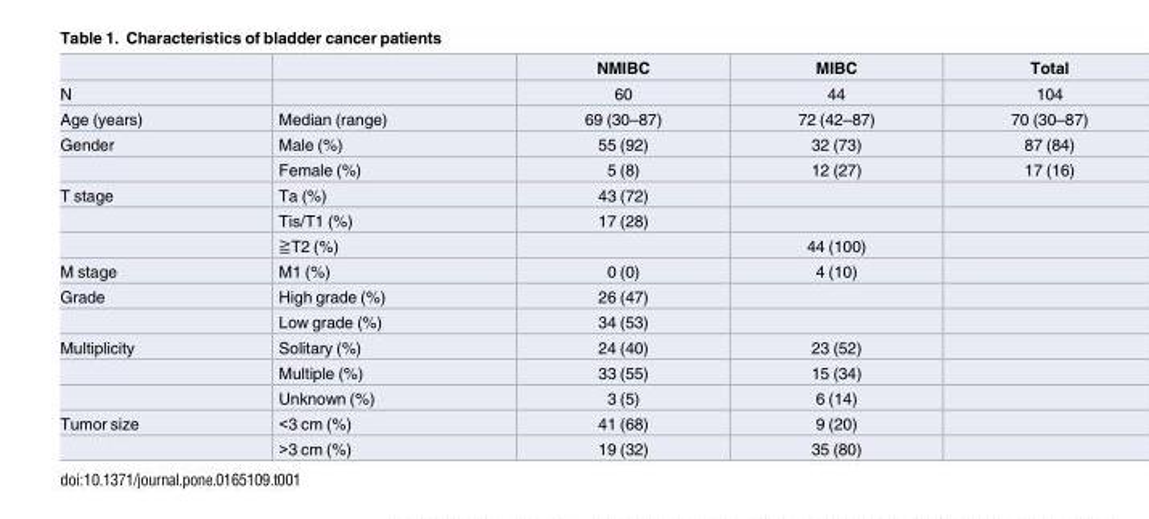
<table><thead><tr><td></td><td></td><td>NMIBC</td><td>MIBC</td><td>Total</td></tr></thead><tbody><tr><td>N</td><td></td><td>60</td><td>44</td><td>104</td></tr><tr><td>Age (years)</td><td>Median (range)</td><td>69 (30–87)</td><td>72 (42–87)</td><td>70 (30–87)</td></tr><tr><td rowspan="2">Gender</td><td>Male (%)</td><td>55 (92)</td><td>32 (73)</td><td>87 (84)</td></tr><tr><td>Female (%)</td><td>5 (8)</td><td>12 (27)</td><td>17 (16)</td></tr><tr><td rowspan="3">T stage</td><td>Ta (%)</td><td>43 (72)</td><td></td><td></td></tr><tr><td>Tis/T1 (%)</td><td>17 (28)</td><td></td><td></td></tr><tr><td>≧T2 (%)</td><td></td><td>44 (100)</td><td></td></tr><tr><td>M stage</td><td>M1 (%)</td><td>0 (0)</td><td>4 (10)</td><td></td></tr><tr><td rowspan="2">Grade</td><td>High grade (%)</td><td>26 (47)</td><td></td><td></td></tr><tr><td>Low grade (%)</td><td>34 (53)</td><td></td><td></td></tr><tr><td rowspan="3">Multiplicity</td><td>Solitary (%)</td><td>24 (40)</td><td>23 (52)</td><td></td></tr><tr><td>Multiple (%)</td><td>33 (55)</td><td>15 (34)</td><td></td></tr><tr><td>Unknown (%)</td><td>3 (5)</td><td>6 (14)</td><td></td></tr><tr><td rowspan="2">Tumor size</td><td>&lt;3 cm (%)</td><td>41 (68)</td><td>9 (20)</td><td></td></tr><tr><td>&gt;3 cm (%)</td><td>19 (32)</td><td>35 (80)</td><td></td></tr></tbody></table>